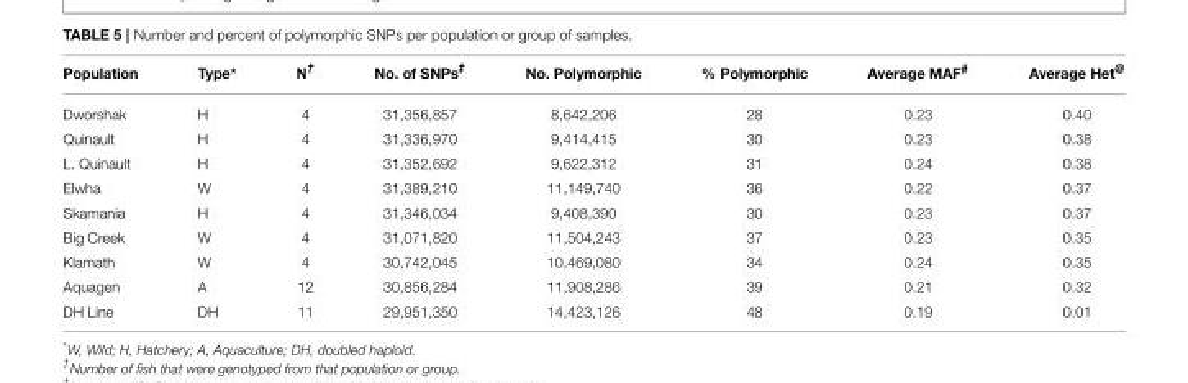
<table><thead><tr><td>Population</td><td>Type*</td><td>N<sup>†</sup></td><td>No. of SNPs<sup>‡</sup></td><td>No. Polymorphic</td><td>% Polymorphic</td><td>Average MAF<sup>#</sup></td><td>Average Het<sup>@</sup></td></tr></thead><tbody><tr><td>Dworshak</td><td>H</td><td>4</td><td>31,356,857</td><td>8,642,206</td><td>28</td><td>0.23</td><td>0.40</td></tr><tr><td>Quinault</td><td>H</td><td>4</td><td>31,336,970</td><td>9,414,415</td><td>30</td><td>0.23</td><td>0.38</td></tr><tr><td>L. Quinault</td><td>H</td><td>4</td><td>31,352,692</td><td>9,622,312</td><td>31</td><td>0.24</td><td>0.38</td></tr><tr><td>Elwha</td><td>W</td><td>4</td><td>31,389,210</td><td>11,149,740</td><td>36</td><td>0.22</td><td>0.37</td></tr><tr><td>Skamania</td><td>H</td><td>4</td><td>31,346,034</td><td>9,408,390</td><td>30</td><td>0.23</td><td>0.37</td></tr><tr><td>Big Creek</td><td>W</td><td>4</td><td>31,071,820</td><td>11,504,243</td><td>37</td><td>0.23</td><td>0.35</td></tr><tr><td>Klamath</td><td>W</td><td>4</td><td>30,742,045</td><td>10,469,080</td><td>34</td><td>0.24</td><td>0.35</td></tr><tr><td>Aquagen</td><td>A</td><td>12</td><td>30,856,284</td><td>11,908,286</td><td>39</td><td>0.21</td><td>0.32</td></tr><tr><td>DH Line</td><td>DH</td><td>11</td><td>29,951,350</td><td>14,423,126</td><td>48</td><td>0.19</td><td>0.01</td></tr></tbody></table>